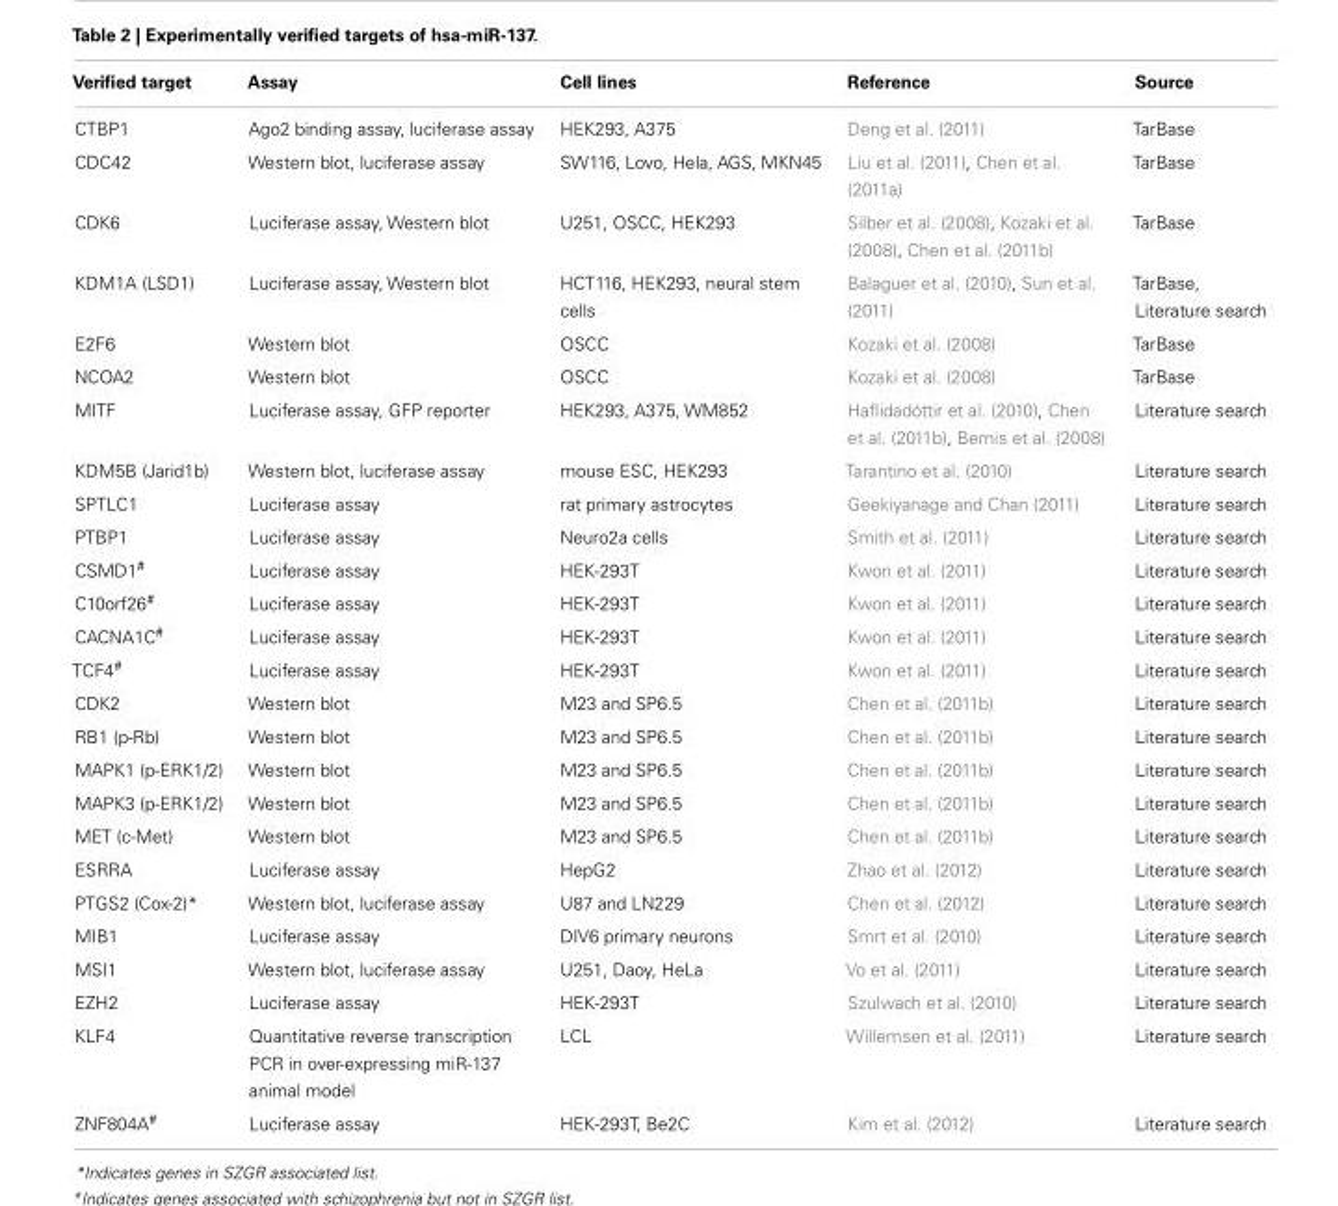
<table><thead><tr><td>Verified target</td><td>Assay</td><td>Cell lines</td><td>Reference</td><td>Source</td></tr></thead><tbody><tr><td>CTBP1</td><td>Ago2 binding assay, luciferase assay</td><td>HEK293, A375</td><td>Deng et al. (2011)</td><td>TarBase</td></tr><tr><td>CDC42</td><td>Western blot, luciferase assay</td><td>SW116, Lovo, Hela, AGS, MKN45</td><td>Liu et al. (2011), Chen et al. (2011a)</td><td>TarBase</td></tr><tr><td>CDK6</td><td>Luciferase assay, Western blot</td><td>U251, OSCC, HEK293</td><td>Silber et al. (2008), Kozaki et al. (2008), Chen et al. (2011b)</td><td>TarBase</td></tr><tr><td>KDM1A (LSD1)</td><td>Luciferase assay, Western blot</td><td>HCT116, HEK293, neural stem cells</td><td>Balaguer et al. (2010), Sun et al. (2011)</td><td>TarBase, Literature search</td></tr><tr><td>E2F6</td><td>Western blot</td><td>OSCC</td><td>Kozaki et al. (2008)</td><td>TarBase</td></tr><tr><td>NCOA2</td><td>Western blot</td><td>OSCC</td><td>Kozaki et al. (2008)</td><td>TarBase</td></tr><tr><td>MITF</td><td>Luciferase assay, GFP reporter</td><td>HEK293, A375, WM852</td><td>Haflidadóttir et al. (2010), Chen et al. (2011b), Bemis et al. (2008)</td><td>Literature search</td></tr><tr><td>KDM5B (Jarid1b)</td><td>Western blot, luciferase assay</td><td>mouse ESC, HEK293</td><td>Tarantino et al. (2010)</td><td>Literature search</td></tr><tr><td>SPTLC1</td><td>Luciferase assay</td><td>rat primary astrocytes</td><td>Geekiyanage and Chan (2011)</td><td>Literature search</td></tr><tr><td>PTBP1</td><td>Luciferase assay</td><td>Neuro2a cells</td><td>Smith et al. (2011)</td><td>Literature search</td></tr><tr><td>CSMD1<sup>#</sup></td><td>Luciferase assay</td><td>HEK-293T</td><td>Kwon et al. (2011)</td><td>Literature search</td></tr><tr><td>C10orf26<sup>#</sup></td><td>Luciferase assay</td><td>HEK-293T</td><td>Kwon et al. (2011)</td><td>Literature search</td></tr><tr><td>CACNA1C<sup>#</sup></td><td>Luciferase assay</td><td>HEK-293T</td><td>Kwon et al. (2011)</td><td>Literature search</td></tr><tr><td>TCF4<sup>#</sup></td><td>Luciferase assay</td><td>HEK-293T</td><td>Kwon et al. (2011)</td><td>Literature search</td></tr><tr><td>CDK2</td><td>Western blot</td><td>M23 and SP6.5</td><td>Chen et al. (2011b)</td><td>Literature search</td></tr><tr><td>RB1 (p-Rb)</td><td>Western blot</td><td>M23 and SP6.5</td><td>Chen et al. (2011b)</td><td>Literature search</td></tr><tr><td>MAPK1 (p-ERK1/2)</td><td>Western blot</td><td>M23 and SP6.5</td><td>Chen et al. (2011b)</td><td>Literature search</td></tr><tr><td>MAPK3 (p-ERK1/2)</td><td>Western blot</td><td>M23 and SP6.5</td><td>Chen et al. (2011b)</td><td>Literature search</td></tr><tr><td>MET (c-Met)</td><td>Western blot</td><td>M23 and SP6.5</td><td>Chen et al. (2011b)</td><td>Literature search</td></tr><tr><td>ESRRA</td><td>Luciferase assay</td><td>HepG2</td><td>Zhao et al. (2012)</td><td>Literature search</td></tr><tr><td>PTGS2 (Cox-2)*</td><td>Western blot, luciferase assay</td><td>U87 and LN229</td><td>Chen et al. (2012)</td><td>Literature search</td></tr><tr><td>MIB1</td><td>Luciferase assay</td><td>DIV6 primary neurons</td><td>Smrt et al. (2010)</td><td>Literature search</td></tr><tr><td>MSI1</td><td>Western blot, luciferase assay</td><td>U251, Daoy, HeLa</td><td>Vo et al. (2011)</td><td>Literature search</td></tr><tr><td>EZH2</td><td>Luciferase assay</td><td>HEK-293T</td><td>Szulwach et al. (2010)</td><td>Literature search</td></tr><tr><td>KLF4</td><td>Quantitative reverse transcription PCR in over-expressing miR-137 animal model</td><td>LCL</td><td>Willemsen et al. (2011)</td><td>Literature search</td></tr><tr><td>ZNF804A<sup>#</sup></td><td>Luciferase assay</td><td>HEK-293T, Be2C</td><td>Kim et al. (2012)</td><td>Literature search</td></tr></tbody></table>